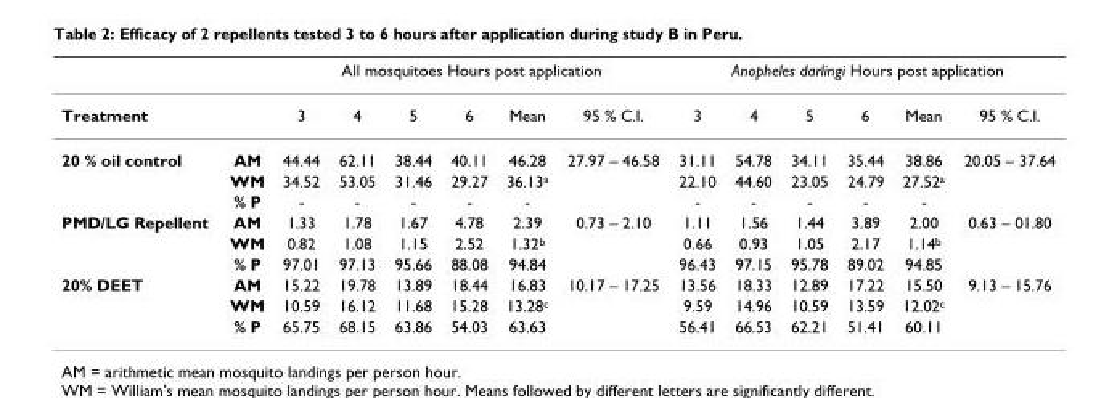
<table><thead><tr><td rowspan="2">Treatment</td><td rowspan="2"></td><td colspan="6">All mosquitoes Hours post application</td><td colspan="6">Anopheles darlingi Hours post application</td></tr><tr><td>3</td><td>4</td><td>5</td><td>6</td><td>Mean</td><td>95 % C.I.</td><td>3</td><td>4</td><td>5</td><td>6</td><td>Mean</td><td>95 % C.I.</td></tr></thead><tbody><tr><td rowspan="3">20 % oil control</td><td>AM</td><td>44.44</td><td>62.11</td><td>38.44</td><td>40.11</td><td>46.28</td><td>27.97 – 46.58</td><td>31.11</td><td>54.78</td><td>34.11</td><td>35.44</td><td>38.86</td><td>20.05 – 37.64</td></tr><tr><td>WM</td><td>34.52</td><td>53.05</td><td>31.46</td><td>29.27</td><td>36.13<sup>a</sup></td><td></td><td>22.10</td><td>44.60</td><td>23.05</td><td>24.79</td><td>27.52<sup>a</sup></td><td></td></tr><tr><td>% P</td><td>-</td><td>-</td><td>-</td><td>-</td><td>-</td><td></td><td>-</td><td>-</td><td>-</td><td>-</td><td>-</td><td></td></tr><tr><td rowspan="3">PMD/LG Repellent</td><td>AM</td><td>1.33</td><td>1.78</td><td>1.67</td><td>4.78</td><td>2.39</td><td>0.73 – 2.10</td><td>1.11</td><td>1.56</td><td>1.44</td><td>3.89</td><td>2.00</td><td>0.63 – 01.80</td></tr><tr><td>WM</td><td>0.82</td><td>1.08</td><td>1.15</td><td>2.52</td><td>1.32<sup>b</sup></td><td></td><td>0.66</td><td>0.93</td><td>1.05</td><td>2.17</td><td>1.14<sup>b</sup></td><td></td></tr><tr><td>% P</td><td>97.01</td><td>97.13</td><td>95.66</td><td>88.08</td><td>94.84</td><td></td><td>96.43</td><td>97.15</td><td>95.78</td><td>89.02</td><td>94.85</td><td></td></tr><tr><td rowspan="3">20% DEET</td><td>AM</td><td>15.22</td><td>19.78</td><td>13.89</td><td>18.44</td><td>16.83</td><td>10.17 – 17.25</td><td>13.56</td><td>18.33</td><td>12.89</td><td>17.22</td><td>15.50</td><td>9.13 – 15.76</td></tr><tr><td>WM</td><td>10.59</td><td>16.12</td><td>11.68</td><td>15.28</td><td>13.28<sup>c</sup></td><td></td><td>9.59</td><td>14.96</td><td>10.59</td><td>13.59</td><td>12.02<sup>c</sup></td><td></td></tr><tr><td>% P</td><td>65.75</td><td>68.15</td><td>63.86</td><td>54.03</td><td>63.63</td><td></td><td>56.41</td><td>66.53</td><td>62.21</td><td>51.41</td><td>60.11</td><td></td></tr></tbody></table>